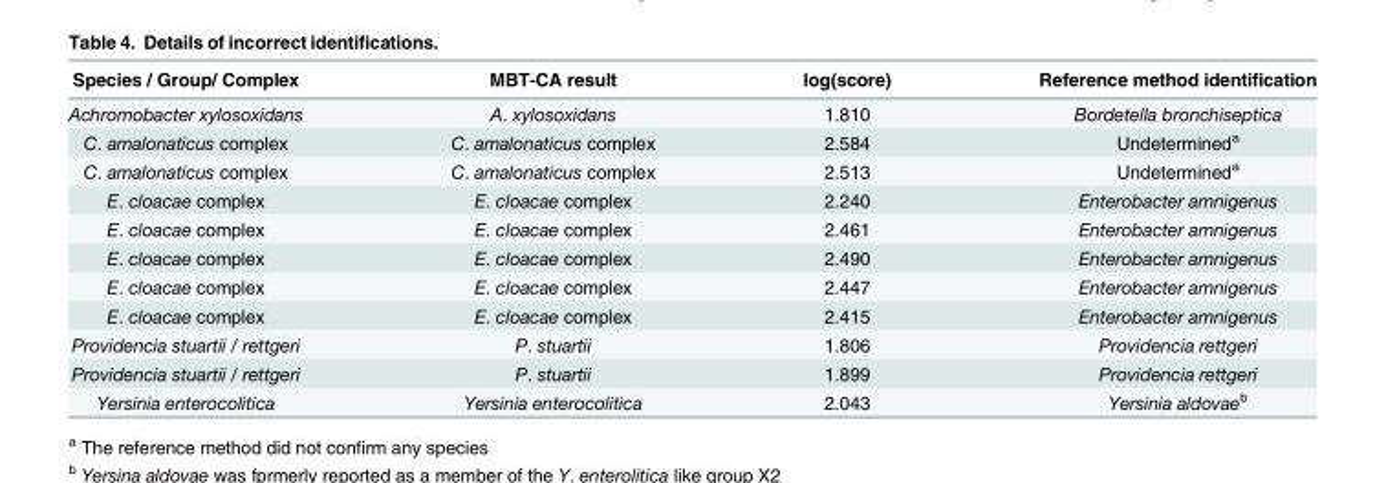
<table><thead><tr><td>Species / Group/ Complex</td><td>MBT-CA result</td><td>log(score)</td><td>Reference method identification</td></tr></thead><tbody><tr><td>Achromobacter xylosoxidans</td><td>A. xylosoxidans</td><td>1.810</td><td>Bordetella bronchiseptica</td></tr><tr><td>C. amalonaticus complex</td><td>C. amalonaticus complex</td><td>2.584</td><td>Undetermined<sup>a</sup></td></tr><tr><td>C. amalonaticus complex</td><td>C. amalonaticus complex</td><td>2.513</td><td>Undetermined<sup>a</sup></td></tr><tr><td>E. cloacae complex</td><td>E. cloacae complex</td><td>2.240</td><td>Enterobacter amnigenus</td></tr><tr><td>E. cloacae complex</td><td>E. cloacae complex</td><td>2.461</td><td>Enterobacter amnigenus</td></tr><tr><td>E. cloacae complex</td><td>E. cloacae complex</td><td>2.490</td><td>Enterobacter amnigenus</td></tr><tr><td>E. cloacae complex</td><td>E. cloacae complex</td><td>2.447</td><td>Enterobacter amnigenus</td></tr><tr><td>E. cloacae complex</td><td>E. cloacae complex</td><td>2.415</td><td>Enterobacter amnigenus</td></tr><tr><td>Providencia stuartii / rettgeri</td><td>P. stuartii</td><td>1.806</td><td>Providencia rettgeri</td></tr><tr><td>Providencia stuartii / rettgeri</td><td>P. stuartii</td><td>1.899</td><td>Providencia rettgeri</td></tr><tr><td>Yersinia enterocolitica</td><td>Yersinia enterocolitica</td><td>2.043</td><td>Yersinia aldovae<sup>b</sup></td></tr></tbody></table>